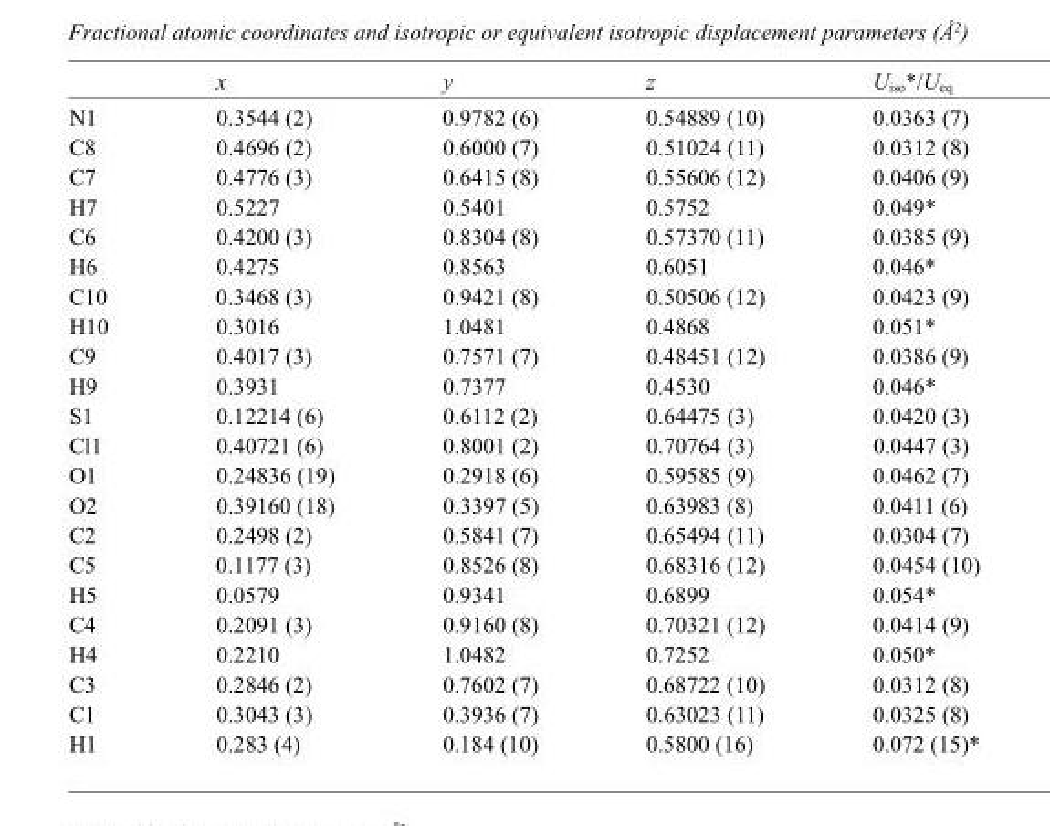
<table><thead><tr><td></td><td>x</td><td>y</td><td>z</td><td>U<sub>iso</sub>*/U<sub>eq</sub></td></tr></thead><tbody><tr><td>N1</td><td>0.3544 (2)</td><td>0.9782 (6)</td><td>0.54889 (10)</td><td>0.0363 (7)</td></tr><tr><td>C8</td><td>0.4696 (2)</td><td>0.6000 (7)</td><td>0.51024 (11)</td><td>0.0312 (8)</td></tr><tr><td>C7</td><td>0.4776 (3)</td><td>0.6415 (8)</td><td>0.55606 (12)</td><td>0.0406 (9)</td></tr><tr><td>H7</td><td>0.5227</td><td>0.5401</td><td>0.5752</td><td>0.049*</td></tr><tr><td>C6</td><td>0.4200 (3)</td><td>0.8304 (8)</td><td>0.57370 (11)</td><td>0.0385 (9)</td></tr><tr><td>H6</td><td>0.4275</td><td>0.8563</td><td>0.6051</td><td>0.046*</td></tr><tr><td>C10</td><td>0.3468 (3)</td><td>0.9421 (8)</td><td>0.50506 (12)</td><td>0.0423 (9)</td></tr><tr><td>H10</td><td>0.3016</td><td>1.0481</td><td>0.4868</td><td>0.051*</td></tr><tr><td>C9</td><td>0.4017 (3)</td><td>0.7571 (7)</td><td>0.48451 (12)</td><td>0.0386 (9)</td></tr><tr><td>H9</td><td>0.3931</td><td>0.7377</td><td>0.4530</td><td>0.046*</td></tr><tr><td>S1</td><td>0.12214 (6)</td><td>0.6112 (2)</td><td>0.64475 (3)</td><td>0.0420 (3)</td></tr><tr><td>Cl1</td><td>0.40721 (6)</td><td>0.8001 (2)</td><td>0.70764 (3)</td><td>0.0447 (3)</td></tr><tr><td>O1</td><td>0.24836 (19)</td><td>0.2918 (6)</td><td>0.59585 (9)</td><td>0.0462 (7)</td></tr><tr><td>O2</td><td>0.39160 (18)</td><td>0.3397 (5)</td><td>0.63983 (8)</td><td>0.0411 (6)</td></tr><tr><td>C2</td><td>0.2498 (2)</td><td>0.5841 (7)</td><td>0.65494 (11)</td><td>0.0304 (7)</td></tr><tr><td>C5</td><td>0.1177 (3)</td><td>0.8526 (8)</td><td>0.68316 (12)</td><td>0.0454 (10)</td></tr><tr><td>H5</td><td>0.0579</td><td>0.9341</td><td>0.6899</td><td>0.054*</td></tr><tr><td>C4</td><td>0.2091 (3)</td><td>0.9160 (8)</td><td>0.70321 (12)</td><td>0.0414 (9)</td></tr><tr><td>H4</td><td>0.2210</td><td>1.0482</td><td>0.7252</td><td>0.050*</td></tr><tr><td>C3</td><td>0.2846 (2)</td><td>0.7602 (7)</td><td>0.68722 (10)</td><td>0.0312 (8)</td></tr><tr><td>C1</td><td>0.3043 (3)</td><td>0.3936 (7)</td><td>0.63023 (11)</td><td>0.0325 (8)</td></tr><tr><td>H1</td><td>0.283 (4)</td><td>0.184 (10)</td><td>0.5800 (16)</td><td>0.072 (15)*</td></tr></tbody></table>